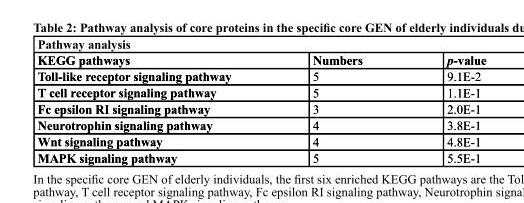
<table><thead><tr><td colspan="3">Pathway analysis</td></tr><tr><td>KEGG pathways</td><td>numbers</td><td>p-value</td></tr></thead><tbody><tr><td>Toll-like receptor signaling pathway</td><td>5</td><td>9.1E-2</td></tr><tr><td>T cell receptor signaling pathway</td><td>5</td><td>1.1E-1</td></tr><tr><td>Fc epsilon RI signaling pathway</td><td>3</td><td>2.0E-1</td></tr><tr><td>Neurotrophin signaling pathway</td><td>4</td><td>3.8E-1</td></tr><tr><td>Wnt signaling pathway</td><td>4</td><td>4.8E-1</td></tr><tr><td>MAPK signaling pathway</td><td>5</td><td>5.5E-1</td></tr></tbody></table>